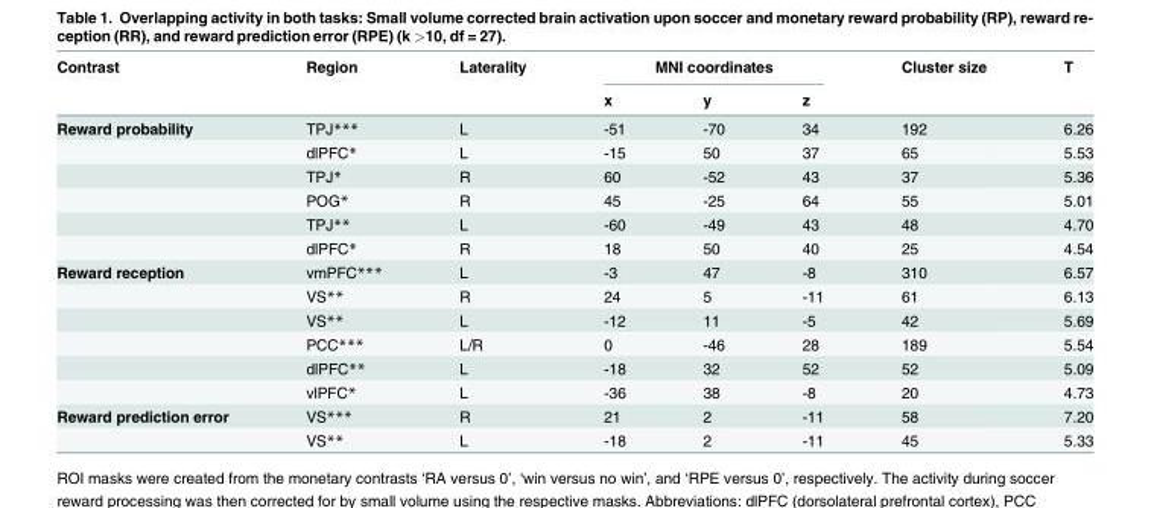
<table><thead><tr><td rowspan="2">Contrast</td><td rowspan="2">Region</td><td rowspan="2">Laterality</td><td colspan="3">MNI coordinates</td><td rowspan="2">Cluster size</td><td rowspan="2">T</td></tr><tr><td>x</td><td>y</td><td>z</td></tr></thead><tbody><tr><td rowspan="6">Reward probability</td><td>TPJ***</td><td>L</td><td>-51</td><td>-70</td><td>34</td><td>192</td><td>6.26</td></tr><tr><td>dlPFC*</td><td>L</td><td>-15</td><td>50</td><td>37</td><td>65</td><td>5.53</td></tr><tr><td>TPJ*</td><td>R</td><td>60</td><td>-52</td><td>43</td><td>37</td><td>5.36</td></tr><tr><td>POG*</td><td>R</td><td>45</td><td>-25</td><td>64</td><td>55</td><td>5.01</td></tr><tr><td>TPJ**</td><td>L</td><td>-60</td><td>-49</td><td>43</td><td>48</td><td>4.70</td></tr><tr><td>dlPFC*</td><td>R</td><td>18</td><td>50</td><td>40</td><td>25</td><td>4.54</td></tr><tr><td rowspan="6">Reward reception</td><td>vmPFC***</td><td>L</td><td>-3</td><td>47</td><td>-8</td><td>310</td><td>6.57</td></tr><tr><td>VS**</td><td>R</td><td>24</td><td>5</td><td>-11</td><td>61</td><td>6.13</td></tr><tr><td>VS**</td><td>L</td><td>-12</td><td>11</td><td>-5</td><td>42</td><td>5.69</td></tr><tr><td>PCC***</td><td>L/R</td><td>0</td><td>-46</td><td>28</td><td>189</td><td>5.54</td></tr><tr><td>dlPFC**</td><td>L</td><td>-18</td><td>32</td><td>52</td><td>52</td><td>5.09</td></tr><tr><td>vlPFC*</td><td>L</td><td>-36</td><td>38</td><td>-8</td><td>20</td><td>4.73</td></tr><tr><td rowspan="2">Reward prediction error</td><td>VS***</td><td>R</td><td>21</td><td>2</td><td>-11</td><td>58</td><td>7.20</td></tr><tr><td>VS**</td><td>L</td><td>-18</td><td>2</td><td>-11</td><td>45</td><td>5.33</td></tr></tbody></table>